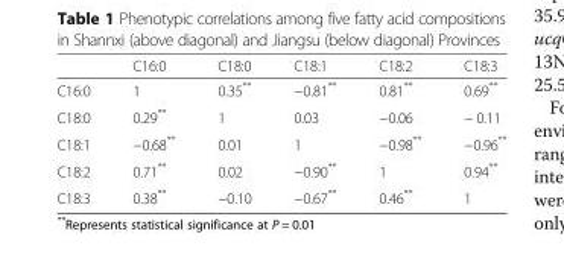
<table><thead><tr><td></td><td>C16:0</td><td>C18:0</td><td>C18:1</td><td>C18:2</td><td>C18:3</td></tr></thead><tbody><tr><td>C16:0</td><td>1</td><td>0.35**</td><td>−0.81**</td><td>0.81**</td><td>0.69**</td></tr><tr><td>C18:0</td><td>0.29**</td><td>1</td><td>0.03</td><td>−0.06</td><td>− 0.11</td></tr><tr><td>C18:1</td><td>−0.68**</td><td>0.01</td><td>1</td><td>−0.98**</td><td>−0.96**</td></tr><tr><td>C18:2</td><td>0.71**</td><td>0.02</td><td>−0.90**</td><td>1</td><td>0.94**</td></tr><tr><td>C18:3</td><td>0.38**</td><td>−0.10</td><td>−0.67**</td><td>0.46**</td><td>1</td></tr></tbody></table>